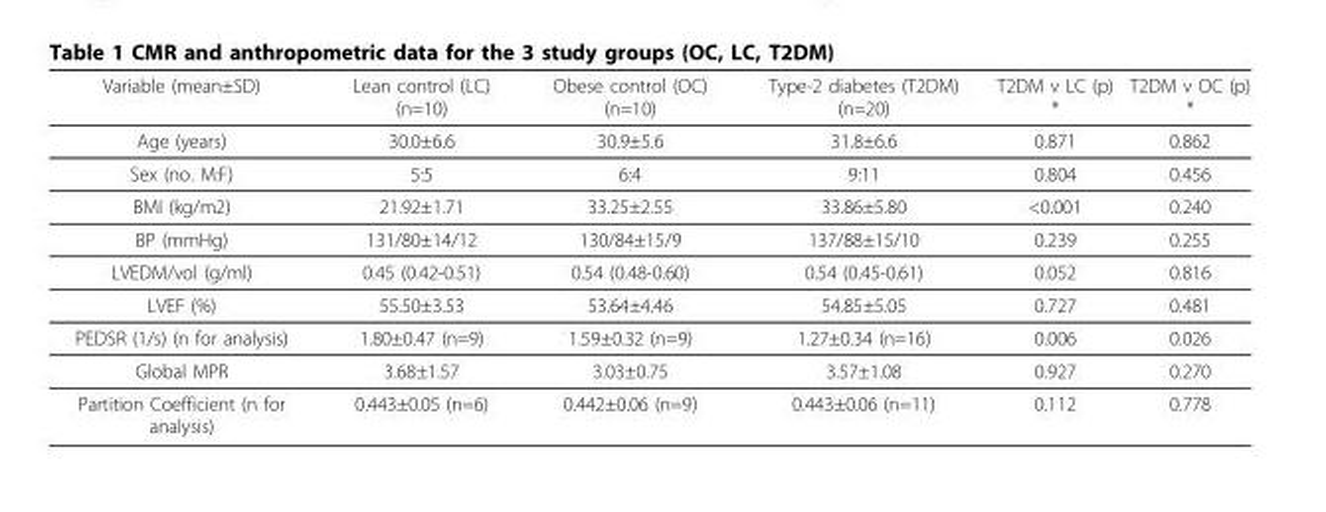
<table><thead><tr><td>Variable (mean±SD)</td><td>Lean control (LC) (n=10)</td><td>Obese control (OC) (n=10)</td><td>Type-2 diabetes (T2DM) (n=20)</td><td>T2DM v LC (p) *</td><td>T2DM v OC (p) *</td></tr></thead><tbody><tr><td>Age (years)</td><td>30.0±6.6</td><td>30.9±5.6</td><td>31.8±6.6</td><td>0.871</td><td>0.862</td></tr><tr><td>Sex (no. M:F)</td><td>5:5</td><td>6:4</td><td>9:11</td><td>0.804</td><td>0.456</td></tr><tr><td>BMI (kg/m2)</td><td>21.92±1.71</td><td>33.25±2.55</td><td>33.86±5.80</td><td>&lt;0.001</td><td>0.240</td></tr><tr><td>BP (mmHg)</td><td>131/80±14/12</td><td>130/84±15/9</td><td>137/88±15/10</td><td>0.239</td><td>0.255</td></tr><tr><td>LVEDM/vol (g/ml)</td><td>0.45 (0.42-0.51)</td><td>0.54 (0.48-0.60)</td><td>0.54 (0.45-0.61)</td><td>0.052</td><td>0.816</td></tr><tr><td>LVEF (%)</td><td>55.50±3.53</td><td>53.64±4.46</td><td>54.85±5.05</td><td>0.727</td><td>0.481</td></tr><tr><td>PEDSR (1/s) (n for analysis)</td><td>1.80±0.47 (n=9)</td><td>1.59±0.32 (n=9)</td><td>1.27±0.34 (n=16)</td><td>0.006</td><td>0.026</td></tr><tr><td>Global MPR</td><td>3.68±1.57</td><td>3.03±0.75</td><td>3.57±1.08</td><td>0.927</td><td>0.270</td></tr><tr><td>Partition Coefficient (n for analysis)</td><td>0.443±0.05 (n=6)</td><td>0.442±0.06 (n=9)</td><td>0.443±0.06 (n=11)</td><td>0.112</td><td>0.778</td></tr></tbody></table>